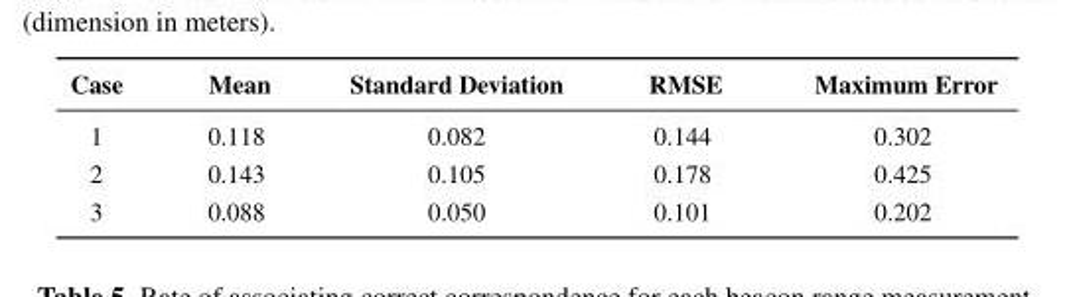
<table><thead><tr><td>Case</td><td>Mean</td><td>Standard Deviation</td><td>RMSE</td><td>Maximum Error</td></tr></thead><tbody><tr><td>1</td><td>0.118</td><td>0.082</td><td>0.144</td><td>0.302</td></tr><tr><td>2</td><td>0.143</td><td>0.105</td><td>0.178</td><td>0.425</td></tr><tr><td>3</td><td>0.088</td><td>0.050</td><td>0.101</td><td>0.202</td></tr></tbody></table>